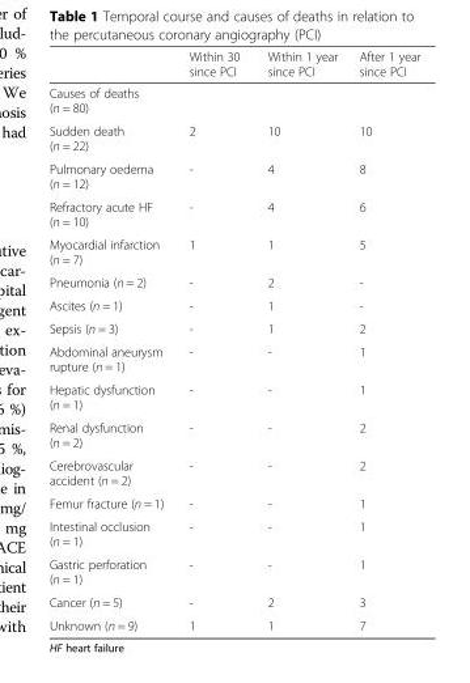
<table><thead><tr><td></td><td>Within 30 since PCI</td><td>Within 1 year since PCI</td><td>After 1 year since PCI</td></tr></thead><tbody><tr><td colspan="4">Causes of deaths (n = 80)</td></tr><tr><td>Sudden death (n = 22)</td><td>2</td><td>10</td><td>10</td></tr><tr><td>Pulmonary oedema (n = 12)</td><td>-</td><td>4</td><td>8</td></tr><tr><td>Refractory acute HF (n = 10)</td><td>-</td><td>4</td><td>6</td></tr><tr><td>Myocardial infarction (n = 7)</td><td>1</td><td>1</td><td>5</td></tr><tr><td>Pneumonia (n = 2)</td><td>-</td><td>2</td><td>-</td></tr><tr><td>Ascites (n = 1)</td><td>-</td><td>1</td><td>-</td></tr><tr><td>Sepsis (n = 3)</td><td>-</td><td>1</td><td>2</td></tr><tr><td>Abdominal aneurysm rupture (n = 1)</td><td>-</td><td>-</td><td>1</td></tr><tr><td>Hepatic dysfunction (n = 1)</td><td>-</td><td>-</td><td>1</td></tr><tr><td>Renal dysfunction (n = 2)</td><td>-</td><td>-</td><td>2</td></tr><tr><td>Cerebrovascular accident (n = 2)</td><td>-</td><td>-</td><td>2</td></tr><tr><td>Femur fracture (n = 1)</td><td>-</td><td>-</td><td>1</td></tr><tr><td>Intestinal occlusion (n = 1)</td><td>-</td><td>-</td><td>1</td></tr><tr><td>Gastric perforation (n = 1)</td><td>-</td><td>-</td><td>1</td></tr><tr><td>Cancer (n = 5)</td><td>-</td><td>2</td><td>3</td></tr><tr><td>Unknown (n = 9)</td><td>1</td><td>1</td><td>7</td></tr></tbody></table>